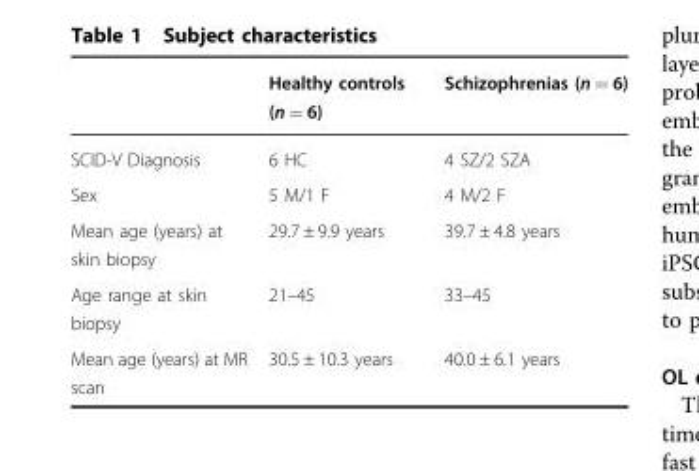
<table><thead><tr><td></td><td>Healthy controls (n = 6)</td><td>Schizophrenias (n = 6)</td></tr></thead><tbody><tr><td>SCID-V Diagnosis</td><td>6 HC</td><td>4 SZ/2 SZA</td></tr><tr><td>Sex</td><td>5 M/1 F</td><td>4 M/2 F</td></tr><tr><td>Mean age (years) at skin biopsy</td><td>29.7 ± 9.9 years</td><td>39.7 ± 4.8 years</td></tr><tr><td>Age range at skin biopsy</td><td>21–45</td><td>33–45</td></tr><tr><td>Mean age (years) at MR scan</td><td>30.5 ± 10.3 years</td><td>40.0 ± 6.1 years</td></tr></tbody></table>